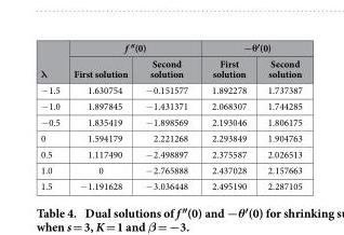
<table><thead><tr><td rowspan="2">λ</td><td colspan="2">f ″(0)</td><td colspan="2">−θ′(0)</td></tr><tr><td>First solution</td><td>Second solution</td><td>First solution</td><td>Second solution</td></tr></thead><tbody><tr><td>− 1.5</td><td>1.630754</td><td>− 0.151577</td><td>1.892278</td><td>1.737387</td></tr><tr><td>− 1.0</td><td>1.897845</td><td>− 1.431371</td><td>2.068307</td><td>1.744285</td></tr><tr><td>− 0.5</td><td>1.835419</td><td>− 1.898569</td><td>2.193046</td><td>1.806175</td></tr><tr><td>0</td><td>1.594179</td><td>2.221268</td><td>2.293849</td><td>1.904763</td></tr><tr><td>0.5</td><td>1.117490</td><td>− 2.498897</td><td>2.375587</td><td>2.026513</td></tr><tr><td>1.0</td><td>0</td><td>− 2.765888</td><td>2.437028</td><td>2.157663</td></tr><tr><td>1.5</td><td>− 1.191628</td><td>− 3.036448</td><td>2.495190</td><td>2.287105</td></tr></tbody></table>